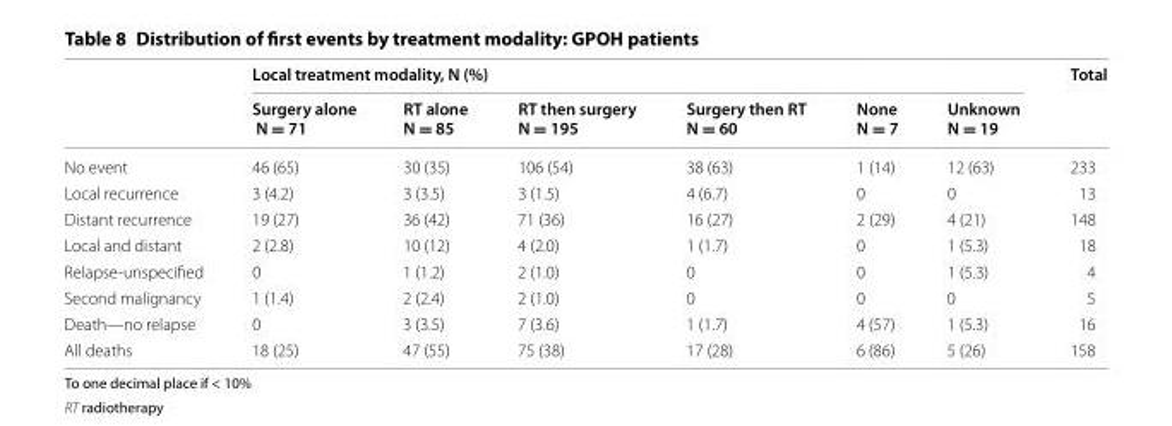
<table><thead><tr><td rowspan="2"></td><td colspan="6">Local treatment modality, N (%)</td><td rowspan="2">Total</td></tr><tr><td>Surgery alone N = 71</td><td>RT alone N = 85</td><td>RT then surgery N = 195</td><td>Surgery then RT N = 60</td><td>None N = 7</td><td>Unknown N = 19</td></tr></thead><tbody><tr><td>No event</td><td>46 (65)</td><td>30 (35)</td><td>106 (54)</td><td>38 (63)</td><td>1 (14)</td><td>12 (63)</td><td>233</td></tr><tr><td>Local recurrence</td><td>3 (4.2)</td><td>3 (3.5)</td><td>3 (1.5)</td><td>4 (6.7)</td><td>0</td><td>0</td><td>13</td></tr><tr><td>Distant recurrence</td><td>19 (27)</td><td>36 (42)</td><td>71 (36)</td><td>16 (27)</td><td>2 (29)</td><td>4 (21)</td><td>148</td></tr><tr><td>Local and distant</td><td>2 (2.8)</td><td>10 (12)</td><td>4 (2.0)</td><td>1 (1.7)</td><td>0</td><td>1 (5.3)</td><td>18</td></tr><tr><td>Relapse-unspecified</td><td>0</td><td>1 (1.2)</td><td>2 (1.0)</td><td>0</td><td>0</td><td>1 (5.3)</td><td>4</td></tr><tr><td>Second malignancy</td><td>1 (1.4)</td><td>2 (2.4)</td><td>2 (1.0)</td><td>0</td><td>0</td><td>0</td><td>5</td></tr><tr><td>Death—no relapse</td><td>0</td><td>3 (3.5)</td><td>7 (3.6)</td><td>1 (1.7)</td><td>4 (57)</td><td>1 (5.3)</td><td>16</td></tr><tr><td>All deaths</td><td>18 (25)</td><td>47 (55)</td><td>75 (38)</td><td>17 (28)</td><td>6 (86)</td><td>5 (26)</td><td>158</td></tr></tbody></table>